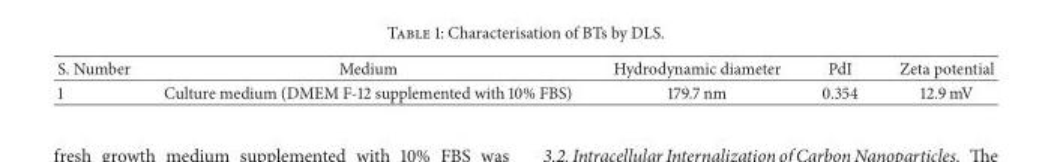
<table><thead><tr><td>S. Number</td><td>Medium</td><td>Hydrodynamic diameter</td><td>PdI</td><td>Zeta potential</td></tr></thead><tbody><tr><td>1</td><td>Culture medium (DMEM F-12 supplemented with 10% FBS)</td><td>179.7 nm</td><td>0.354</td><td>12.9 mV</td></tr></tbody></table>